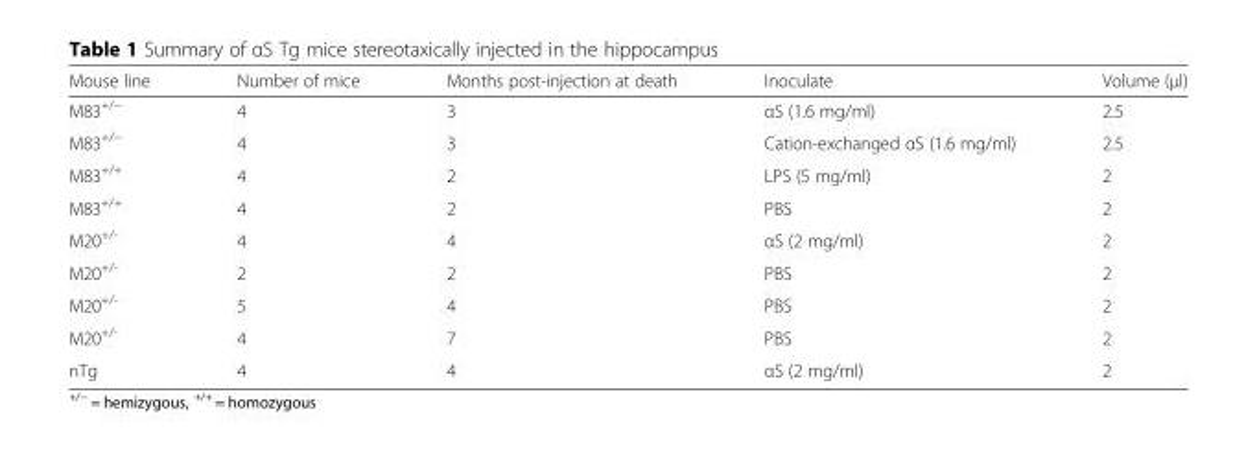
<table><thead><tr><td>Mouse line</td><td>Number of mice</td><td>Months post-injection at death</td><td>Inoculate</td><td>Volume (μl)</td></tr></thead><tbody><tr><td>M83<sup>+/−</sup></td><td>4</td><td>3</td><td>αS (1.6 mg/ml)</td><td>2.5</td></tr><tr><td>M83<sup>+/−</sup></td><td>4</td><td>3</td><td>Cation-exchanged αS (1.6 mg/ml)</td><td>2.5</td></tr><tr><td>M83<sup>+/+</sup></td><td>4</td><td>2</td><td>LPS (5 mg/ml)</td><td>2</td></tr><tr><td>M83<sup>+/+</sup></td><td>4</td><td>2</td><td>PBS</td><td>2</td></tr><tr><td>M20<sup>+/-</sup></td><td>4</td><td>4</td><td>αS (2 mg/ml)</td><td>2</td></tr><tr><td>M20<sup>+/-</sup></td><td>2</td><td>2</td><td>PBS</td><td>2</td></tr><tr><td>M20<sup>+/-</sup></td><td>5</td><td>4</td><td>PBS</td><td>2</td></tr><tr><td>M20<sup>+/-</sup></td><td>4</td><td>7</td><td>PBS</td><td>2</td></tr><tr><td>nTg</td><td>4</td><td>4</td><td>αS (2 mg/ml)</td><td>2</td></tr></tbody></table>